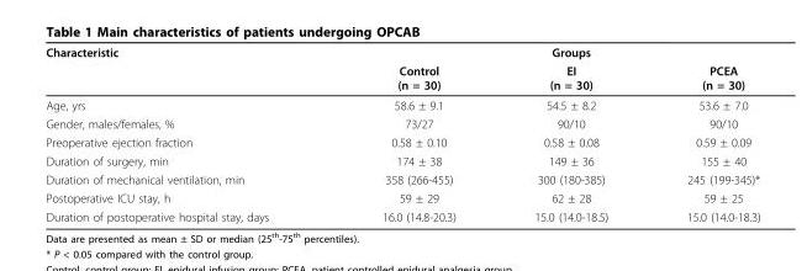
<table><thead><tr><td rowspan="2">Characteristic</td><td colspan="3">Groups</td></tr><tr><td>Control (n = 30)</td><td>EI (n = 30)</td><td>PCEA (n = 30)</td></tr></thead><tbody><tr><td>Age, yrs</td><td>58.6 ± 9.1</td><td>54.5 ± 8.2</td><td>53.6 ± 7.0</td></tr><tr><td>Gender, males/females, %</td><td>73/27</td><td>90/10</td><td>90/10</td></tr><tr><td>Preoperative ejection fraction</td><td>0.58 ± 0.10</td><td>0.58 ± 0.08</td><td>0.59 ± 0.09</td></tr><tr><td>Duration of surgery, min</td><td>174 ± 38</td><td>149 ± 36</td><td>155 ± 40</td></tr><tr><td>Duration of mechanical ventilation, min</td><td>358 (266-455)</td><td>300 (180-385)</td><td>245 (199-345)*</td></tr><tr><td>Postoperative ICU stay, h</td><td>59 ± 29</td><td>62 ± 28</td><td>59 ± 25</td></tr><tr><td>Duration of postoperative hospital stay, days</td><td>16.0 (14.8-20.3)</td><td>15.0 (14.0-18.5)</td><td>15.0 (14.0-18.3)</td></tr></tbody></table>